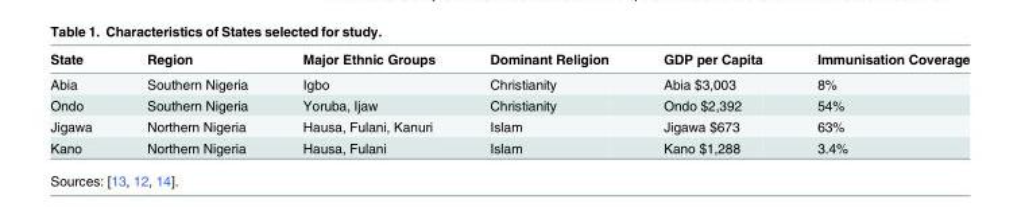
<table><thead><tr><td>State</td><td>Region</td><td>Major Ethnic Groups</td><td>Dominant Religion</td><td>GDP per Capita</td><td>Immunisation Coverage</td></tr></thead><tbody><tr><td>Abia</td><td>Southern Nigeria</td><td>Igbo</td><td>Christianity</td><td>Abia $3,003</td><td>8%</td></tr><tr><td>Ondo</td><td>Southern Nigeria</td><td>Yoruba, Ijaw</td><td>Christianity</td><td>Ondo $2,392</td><td>54%</td></tr><tr><td>Jigawa</td><td>Northern Nigeria</td><td>Hausa, Fulani, Kanuri</td><td>Islam</td><td>Jigawa $673</td><td>63%</td></tr><tr><td>Kano</td><td>Northern Nigeria</td><td>Hausa, Fulani</td><td>Islam</td><td>Kano $1,288</td><td>3.4%</td></tr></tbody></table>